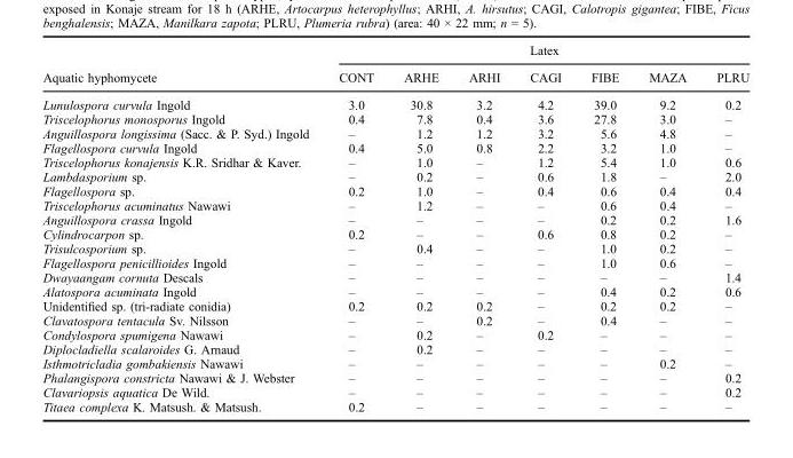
<table><thead><tr><td rowspan="2">Aquatic hyphomycete</td><td colspan="7">Latex</td></tr><tr><td>CONT</td><td>ARHE</td><td>ARHI</td><td>CAGI</td><td>FIBE</td><td>MAZA</td><td>PLRU</td></tr></thead><tbody><tr><td>Lunulospora curvula Ingold</td><td>3.0</td><td>30.8</td><td>3.2</td><td>4.2</td><td>39.0</td><td>9.2</td><td>0.2</td></tr><tr><td>Triscelophorus monosporus Ingold</td><td>0.4</td><td>7.8</td><td>0.4</td><td>3.6</td><td>27.8</td><td>3.0</td><td>–</td></tr><tr><td>Anguillospora longissima (Sacc. &amp; P. Syd.) Ingold</td><td>–</td><td>1.2</td><td>1.2</td><td>3.2</td><td>5.6</td><td>4.8</td><td>–</td></tr><tr><td>Flagellospora curvula Ingold</td><td>0.4</td><td>5.0</td><td>0.8</td><td>2.2</td><td>3.2</td><td>1.0</td><td>–</td></tr><tr><td>Triscelophorus konajensis K.R. Sridhar &amp; Kaver.</td><td>–</td><td>1.0</td><td>–</td><td>1.2</td><td>5.4</td><td>1.0</td><td>0.6</td></tr><tr><td>Lambdasporium sp.</td><td>–</td><td>0.2</td><td>–</td><td>0.6</td><td>1.8</td><td>–</td><td>2.0</td></tr><tr><td>Flagellospora sp.</td><td>0.2</td><td>1.0</td><td>–</td><td>0.4</td><td>0.6</td><td>0.4</td><td>0.4</td></tr><tr><td>Triscelophorus acuminatus Nawawi</td><td>–</td><td>1.2</td><td>–</td><td>–</td><td>0.6</td><td>0.4</td><td>–</td></tr><tr><td>Anguillospora crassa Ingold</td><td>–</td><td>–</td><td>–</td><td>–</td><td>0.2</td><td>0.2</td><td>1.6</td></tr><tr><td>Cylindrocarpon sp.</td><td>0.2</td><td>–</td><td>–</td><td>0.6</td><td>0.8</td><td>0.2</td><td>–</td></tr><tr><td>Trisulcosporium sp.</td><td>–</td><td>0.4</td><td>–</td><td>–</td><td>1.0</td><td>0.2</td><td>–</td></tr><tr><td>Flagellospora penicillioides Ingold</td><td>–</td><td>–</td><td>–</td><td>–</td><td>1.0</td><td>0.6</td><td>–</td></tr><tr><td>Dwayaangam cornuta Descals</td><td>–</td><td>–</td><td>–</td><td>–</td><td>–</td><td>–</td><td>1.4</td></tr><tr><td>Alatospora acuminata Ingold</td><td>–</td><td>–</td><td>–</td><td>–</td><td>0.4</td><td>0.2</td><td>0.6</td></tr><tr><td>Unidentified sp. (tri-radiate conidia)</td><td>0.2</td><td>0.2</td><td>0.2</td><td>–</td><td>0.2</td><td>0.2</td><td>–</td></tr><tr><td>Clavatospora tentacula Sv. Nilsson</td><td>–</td><td>–</td><td>0.2</td><td>–</td><td>0.4</td><td>–</td><td>–</td></tr><tr><td>Condylospora spumigena Nawawi</td><td>–</td><td>0.2</td><td>–</td><td>0.2</td><td>–</td><td>–</td><td>–</td></tr><tr><td>Diplocladiella scalaroides G. Arnaud</td><td>–</td><td>0.2</td><td>–</td><td>–</td><td>–</td><td>–</td><td>–</td></tr><tr><td>Isthmotricladia gombakiensis Nawawi</td><td>–</td><td>–</td><td>–</td><td>–</td><td>–</td><td>0.2</td><td>–</td></tr><tr><td>Phalangispora constricta Nawawi &amp; J. Webster</td><td>–</td><td>–</td><td>–</td><td>–</td><td>–</td><td>–</td><td>0.2</td></tr><tr><td>Clavariopsis aquatica De Wild.</td><td>–</td><td>–</td><td>–</td><td>–</td><td>–</td><td>–</td><td>0.2</td></tr><tr><td>Titaea complexa K. Matsush. &amp; Matsush.</td><td>0.2</td><td>–</td><td>–</td><td>–</td><td>–</td><td>–</td><td>–</td></tr></tbody></table>